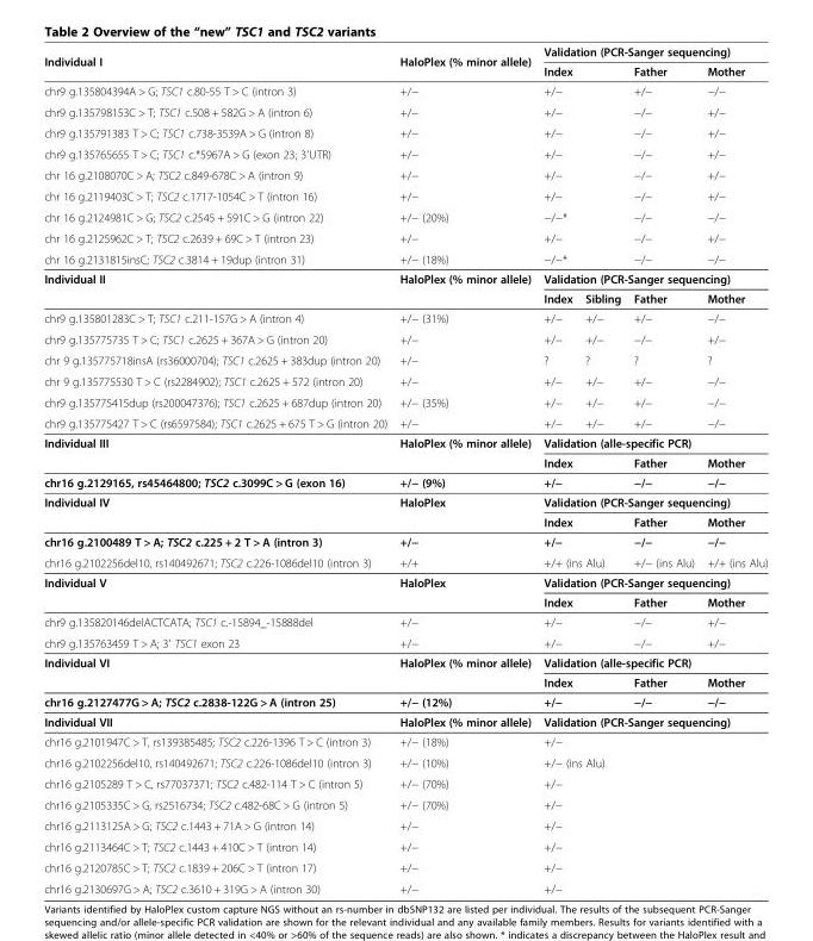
<table><tbody><tr><td rowspan="2">Individual I</td><td rowspan="2">HaloPlex (% minor allele)</td><td colspan="4">Validation (PCR-Sanger sequencing)</td></tr><tr><td colspan="2">Index</td><td>Father</td><td>Mother</td></tr><tr><td>chr9 g.135804394A &gt; G; TSC1 c.80-55 T &gt; C (intron 3)</td><td>+/−</td><td colspan="2">+/−</td><td>+/−</td><td>−/−</td></tr><tr><td>chr9 g.135798153C &gt; T; TSC1 c.508 + 582G &gt; A (intron 6)</td><td>+/−</td><td colspan="2">+/−</td><td>−/−</td><td>+/−</td></tr><tr><td>chr9 g.135791383 T &gt; C; TSC1 c.738-3539A &gt; G (intron 8)</td><td>+/−</td><td colspan="2">+/−</td><td>−/−</td><td>+/−</td></tr><tr><td>chr9 g.135765655 T &gt; C; TSC1 c.*5967A &gt; G (exon 23; 3′UTR)</td><td>+/−</td><td colspan="2">+/−</td><td>−/−</td><td>+/−</td></tr><tr><td>chr 16 g.2108070C &gt; A; TSC2 c.849-678C &gt; A (intron 9)</td><td>+/−</td><td colspan="2">+/−</td><td>−/−</td><td>+/−</td></tr><tr><td>chr 16 g.2119403C &gt; T; TSC2 c.1717-1054C &gt; T (intron 16)</td><td>+/−</td><td colspan="2">+/−</td><td>−/−</td><td>+/−</td></tr><tr><td>chr 16 g.2124981C &gt; G; TSC2 c.2545 + 591C &gt; G (intron 22)</td><td>+/− (20%)</td><td colspan="2">−/−*</td><td>−/−</td><td>−/−</td></tr><tr><td>chr 16 g.2125962C &gt; T; TSC2 c.2639 + 69C &gt; T (intron 23)</td><td>+/−</td><td colspan="2">+/−</td><td>−/−</td><td>+/−</td></tr><tr><td>chr 16 g.2131815insC; TSC2 c.3814 + 19dup (intron 31)</td><td>+/− (18%)</td><td colspan="2">−/−*</td><td>−/−</td><td>−/−</td></tr><tr><td rowspan="2">Individual II</td><td rowspan="2">HaloPlex (% minor allele)</td><td colspan="4">Validation (PCR-Sanger sequencing)</td></tr><tr><td>Index</td><td>Sibling</td><td>Father</td><td>Mother</td></tr><tr><td>chr9 g.135801283C &gt; T; TSC1 c.211-157G &gt; A (intron 4)</td><td>+/− (31%)</td><td>+/−</td><td>+/−</td><td>+/−</td><td>−/−</td></tr><tr><td>chr9 g.135775735 T &gt; C; TSC1 c.2625 + 367A &gt; G (intron 20)</td><td>+/−</td><td>+/−</td><td>+/−</td><td>−/−</td><td>+/−</td></tr><tr><td>chr 9 g.135775718insA (rs36000704); TSC1 c.2625 + 383dup (intron 20)</td><td>+/−</td><td>?</td><td>?</td><td>?</td><td>?</td></tr><tr><td>chr 9 g.135775530 T &gt; C (rs2284902); TSC1 c.2625 + 572 (intron 20)</td><td>+/−</td><td>+/−</td><td>+/−</td><td>+/−</td><td>−/−</td></tr><tr><td>chr9 g.135775415dup (rs200047376); TSC1 c.2625 + 687dup (intron 20)</td><td>+/− (35%)</td><td>+/−</td><td>+/−</td><td>+/−</td><td>−/−</td></tr><tr><td>chr9 g.135775427 T &gt; C (rs6597584); TSC1 c.2625 + 675 T &gt; G (intron 20)</td><td>+/−</td><td>+/−</td><td>+/−</td><td>+/−</td><td>−/−</td></tr><tr><td rowspan="2">Individual III</td><td rowspan="2">HaloPlex (% minor allele)</td><td colspan="4">Validation (alle-specific PCR)</td></tr><tr><td colspan="2">Index</td><td>Father</td><td>Mother</td></tr><tr><td>chr16 g.2129165, rs45464800; TSC2 c.3099C &gt; G (exon 16)</td><td>+/− (9%)</td><td colspan="2">+/−</td><td>−/−</td><td>−/−</td></tr><tr><td rowspan="2">Individual IV</td><td rowspan="2">HaloPlex</td><td colspan="4">Validation (PCR-Sanger sequencing)</td></tr><tr><td colspan="2">Index</td><td>Father</td><td>Mother</td></tr><tr><td>chr16 g.2100489 T &gt; A; TSC2 c.225 + 2 T &gt; A (intron 3)</td><td>+/−</td><td colspan="2">+/−</td><td>−/−</td><td>−/−</td></tr><tr><td>chr16 g.2102256del10, rs140492671; TSC2 c.226-1086del10 (intron 3)</td><td>+/+</td><td colspan="2">+/+ (ins Alu)</td><td>+/− (ins Alu)</td><td>+/+ (ins Alu)</td></tr><tr><td rowspan="2">Individual V</td><td rowspan="2">HaloPlex</td><td colspan="4">Validation (PCR-Sanger sequencing)</td></tr><tr><td colspan="2">Index</td><td>Father</td><td>Mother</td></tr><tr><td>chr9 g.135820146delACTCATA; TSC1 c.-15894_-15888del</td><td>+/−</td><td colspan="2">+/−</td><td>−/−</td><td>+/−</td></tr><tr><td>chr9 g.135763459 T &gt; A; 3′ TSC1 exon 23</td><td>+/−</td><td colspan="2">+/−</td><td>−/−</td><td>+/−</td></tr><tr><td rowspan="2">Individual VI</td><td rowspan="2">HaloPlex (% minor allele)</td><td colspan="4">Validation (alle-specific PCR)</td></tr><tr><td colspan="2">Index</td><td>Father</td><td>Mother</td></tr><tr><td>chr16 g.2127477G &gt; A; TSC2 c.2838-122G &gt; A (intron 25)</td><td>+/− (12%)</td><td colspan="2">+/−</td><td>−/−</td><td>−/−</td></tr><tr><td>Individual VII</td><td>HaloPlex (% minor allele)</td><td colspan="4">Validation (PCR-Sanger sequencing)</td></tr><tr><td>chr16 g.2101947C &gt; T, rs139385485; TSC2 c.226-1396 T &gt; C (intron 3)</td><td>+/− (18%)</td><td colspan="4">+/−</td></tr><tr><td>chr16 g.2102256del10, rs140492671; TSC2 c.226-1086del10 (intron 3)</td><td>+/− (10%)</td><td colspan="4">+/− (ins Alu)</td></tr><tr><td>chr16 g.2105289 T &gt; C, rs77037371; TSC2 c.482-114 T &gt; C (intron 5)</td><td>+/− (70%)</td><td colspan="4">+/−</td></tr><tr><td>chr16 g.2105335C &gt; G, rs2516734; TSC2 c.482-68C &gt; G (intron 5)</td><td>+/− (70%)</td><td colspan="4">+/−</td></tr><tr><td>chr16 g.2113125A &gt; G; TSC2 c.1443 + 71A &gt; G (intron 14)</td><td>+/−</td><td colspan="4">+/−</td></tr><tr><td>chr16 g.2113464C &gt; T; TSC2 c.1443 + 410C &gt; T (intron 14)</td><td>+/−</td><td colspan="4">+/−</td></tr><tr><td>chr16 g.2120785C &gt; T; TSC2 c.1839 + 206C &gt; T (intron 17)</td><td>+/−</td><td colspan="4">+/−</td></tr><tr><td>chr16 g.2130697G &gt; A; TSC2 c.3610 + 319G &gt; A (intron 30)</td><td>+/−</td><td colspan="4">+/−</td></tr></tbody></table>